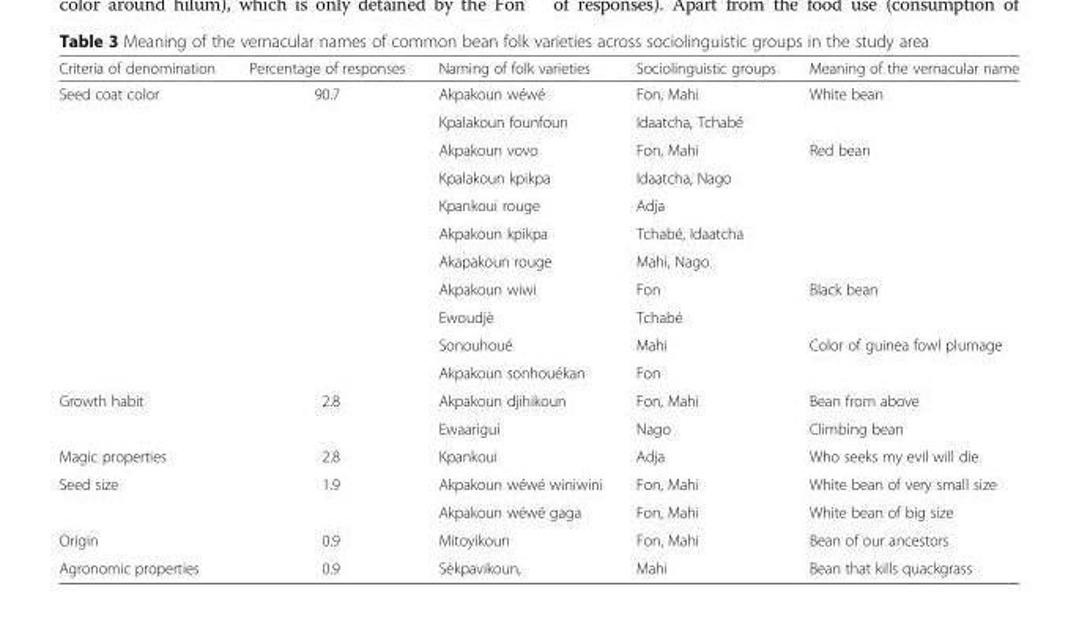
<table><thead><tr><td>Criteria of denomination</td><td>Percentage of responses</td><td>Naming of folk varieties</td><td>Sociolinguistic groups</td><td>Meaning of the vernacular name</td></tr></thead><tbody><tr><td rowspan="11">Seed coat color</td><td rowspan="11">90.7</td><td>Akpakoun wéwé</td><td>Fon, Mahi</td><td rowspan="2">White bean</td></tr><tr><td>Kpalakoun founfoun</td><td>Idaatcha, Tchabé</td></tr><tr><td>Akpakoun vovo</td><td>Fon, Mahi</td><td rowspan="5">Red bean</td></tr><tr><td>Kpalakoun kpikpa</td><td>Idaatcha, Nago</td></tr><tr><td>Kpankoui rouge</td><td>Adja</td></tr><tr><td>Akpakoun kpikpa</td><td>Tchabé, Idaatcha</td></tr><tr><td>Akapakoun rouge</td><td>Mahi, Nago</td></tr><tr><td>Akpakoun wiwi</td><td>Fon</td><td rowspan="2">Black bean</td></tr><tr><td>Ewoudjè</td><td>Tchabé</td></tr><tr><td>Sonouhoué</td><td>Mahi</td><td rowspan="2">Color of guinea fowl plumage</td></tr><tr><td>Akpakoun sonhouékan</td><td>Fon</td></tr><tr><td rowspan="2">Growth habit</td><td rowspan="2">2.8</td><td>Akpakoun djihikoun</td><td>Fon, Mahi</td><td>Bean from above</td></tr><tr><td>Ewaarigui</td><td>Nago</td><td>Climbing bean</td></tr><tr><td>Magic properties</td><td>2.8</td><td>Kpankoui</td><td>Adja</td><td>Who seeks my evil will die</td></tr><tr><td rowspan="2">Seed size</td><td rowspan="2">1.9</td><td>Akpakoun wéwé winiwini</td><td>Fon, Mahi</td><td>White bean of very small size</td></tr><tr><td>Akpakoun wéwé gaga</td><td>Fon, Mahi</td><td>White bean of big size</td></tr><tr><td>Origin</td><td>0.9</td><td>Mitoyikoun</td><td>Fon, Mahi</td><td>Bean of our ancestors</td></tr><tr><td>Agronomic properties</td><td>0.9</td><td>Sèkpavikoun,</td><td>Mahi</td><td>Bean that kills quackgrass</td></tr></tbody></table>